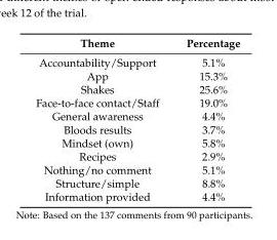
<table><thead><tr><td>Theme</td><td>Percentage</td></tr></thead><tbody><tr><td>Accountability/Support</td><td>5.1%</td></tr><tr><td>App</td><td>15.3%</td></tr><tr><td>Shakes</td><td>25.6%</td></tr><tr><td>Face-to-face contact/Staff</td><td>19.0%</td></tr><tr><td>General awareness</td><td>4.4%</td></tr><tr><td>Bloods results</td><td>3.7%</td></tr><tr><td>Mindset (own)</td><td>5.8%</td></tr><tr><td>Recipes</td><td>2.9%</td></tr><tr><td>Nothing/no comment</td><td>5.1%</td></tr><tr><td>Structure/simple</td><td>8.8%</td></tr><tr><td>Information provided</td><td>4.4%</td></tr></tbody></table>